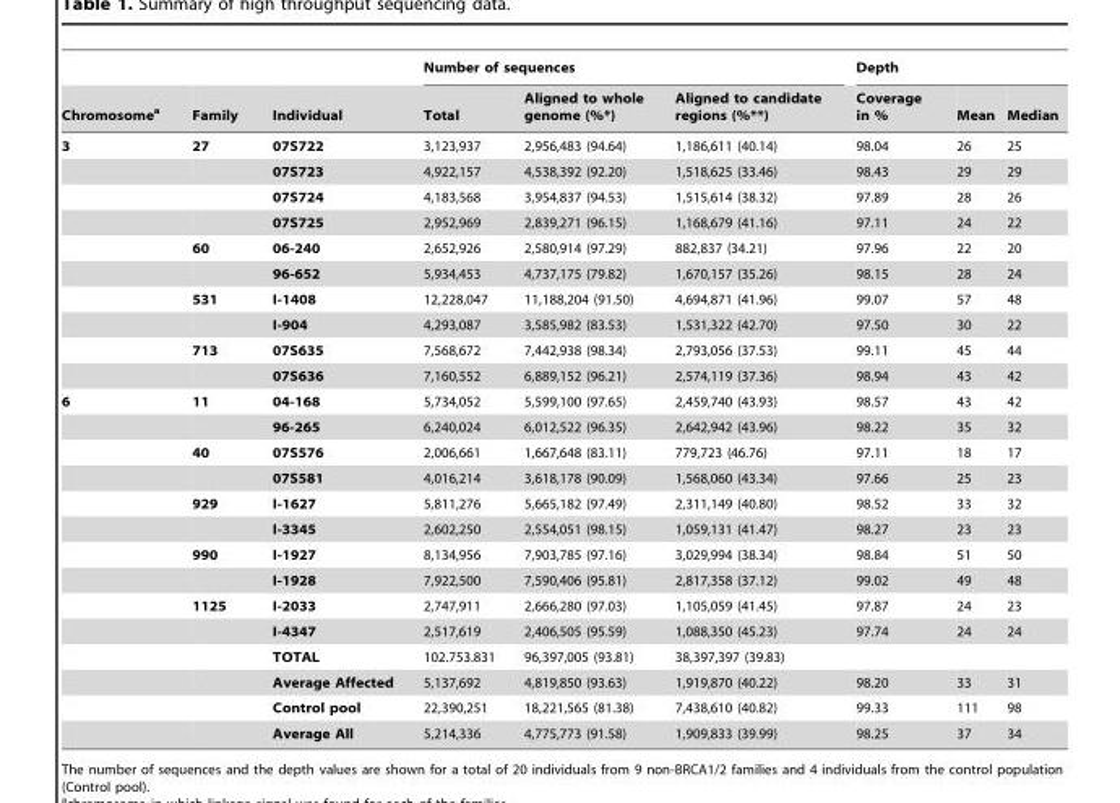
<table><thead><tr><td rowspan="2">Chromosome<sup>a</sup></td><td rowspan="2">Family</td><td rowspan="2">Individual</td><td colspan="3">Number of sequences</td><td colspan="3">Depth</td></tr><tr><td>Total</td><td>Aligned to whole genome (%*)</td><td>Aligned to candidate regions (%**)</td><td>Coverage in %</td><td>Mean</td><td>Median</td></tr></thead><tbody><tr><td rowspan="10">3</td><td>27</td><td>07S722</td><td>3,123,937</td><td>2,956,483 (94.64)</td><td>1,186,611 (40.14)</td><td>98.04</td><td>26</td><td>25</td></tr><tr><td></td><td>07S723</td><td>4,922,157</td><td>4,538,392 (92.20)</td><td>1,518,625 (33.46)</td><td>98.43</td><td>29</td><td>29</td></tr><tr><td></td><td>07S724</td><td>4,183,568</td><td>3,954,837 (94.53)</td><td>1,515,614 (38.32)</td><td>97.89</td><td>28</td><td>26</td></tr><tr><td></td><td>07S725</td><td>2,952,969</td><td>2,839,271 (96.15)</td><td>1,168,679 (41.16)</td><td>97.11</td><td>24</td><td>22</td></tr><tr><td>60</td><td>06-240</td><td>2,652,926</td><td>2,580,914 (97.29)</td><td>882,837 (34.21)</td><td>97.96</td><td>22</td><td>20</td></tr><tr><td></td><td>96-652</td><td>5,934,453</td><td>4,737,175 (79.82)</td><td>1,670,157 (35.26)</td><td>98.15</td><td>28</td><td>24</td></tr><tr><td>531</td><td>I-1408</td><td>12,228,047</td><td>11,188,204 (91.50)</td><td>4,694,871 (41.96)</td><td>99.07</td><td>57</td><td>48</td></tr><tr><td></td><td>I-904</td><td>4,293,087</td><td>3,585,982 (83.53)</td><td>1,531,322 (42.70)</td><td>97.50</td><td>30</td><td>22</td></tr><tr><td>713</td><td>07S635</td><td>7,568,672</td><td>7,442,938 (98.34)</td><td>2,793,056 (37.53)</td><td>99.11</td><td>45</td><td>44</td></tr><tr><td></td><td>07S636</td><td>7,160,552</td><td>6,889,152 (96.21)</td><td>2,574,119 (37.36)</td><td>98.94</td><td>43</td><td>42</td></tr><tr><td rowspan="14">6</td><td>11</td><td>04-168</td><td>5,734,052</td><td>5,599,100 (97.65)</td><td>2,459,740 (43.93)</td><td>98.57</td><td>43</td><td>42</td></tr><tr><td></td><td>96-265</td><td>6,240,024</td><td>6,012,522 (96.35)</td><td>2,642,942 (43.96)</td><td>98.22</td><td>35</td><td>32</td></tr><tr><td>40</td><td>07S576</td><td>2,006,661</td><td>1,667,648 (83.11)</td><td>779,723 (46.76)</td><td>97.11</td><td>18</td><td>17</td></tr><tr><td></td><td>07S581</td><td>4,016,214</td><td>3,618,178 (90.09)</td><td>1,568,060 (43.34)</td><td>97.66</td><td>25</td><td>23</td></tr><tr><td>929</td><td>I-1627</td><td>5,811,276</td><td>5,665,182 (97.49)</td><td>2,311,149 (40.80)</td><td>98.52</td><td>33</td><td>32</td></tr><tr><td></td><td>I-3345</td><td>2,602,250</td><td>2,554,051 (98.15)</td><td>1,059,131 (41.47)</td><td>98.27</td><td>23</td><td>23</td></tr><tr><td>990</td><td>I-1927</td><td>8,134,956</td><td>7,903,785 (97.16)</td><td>3,029,994 (38.34)</td><td>98.84</td><td>51</td><td>50</td></tr><tr><td></td><td>I-1928</td><td>7,922,500</td><td>7,590,406 (95.81)</td><td>2,817,358 (37.12)</td><td>99.02</td><td>49</td><td>48</td></tr><tr><td>1125</td><td>I-2033</td><td>2,747,911</td><td>2,666,280 (97.03)</td><td>1,105,059 (41.45)</td><td>97.87</td><td>24</td><td>23</td></tr><tr><td></td><td>I-4347</td><td>2,517,619</td><td>2,406,505 (95.59)</td><td>1,088,350 (45.23)</td><td>97.74</td><td>24</td><td>24</td></tr><tr><td></td><td>TOTAL</td><td>102.753.831</td><td>96,397,005 (93.81)</td><td>38,397,397 (39.83)</td><td></td><td></td><td></td></tr><tr><td></td><td>Average Affected</td><td>5,137,692</td><td>4,819,850 (93.63)</td><td>1,919,870 (40.22)</td><td>98.20</td><td>33</td><td>31</td></tr><tr><td></td><td>Control pool</td><td>22,390,251</td><td>18,221,565 (81.38)</td><td>7,438,610 (40.82)</td><td>99.33</td><td>111</td><td>98</td></tr><tr><td></td><td>Average All</td><td>5,214,336</td><td>4,775,773 (91.58)</td><td>1,909,833 (39.99)</td><td>98.25</td><td>37</td><td>34</td></tr></tbody></table>